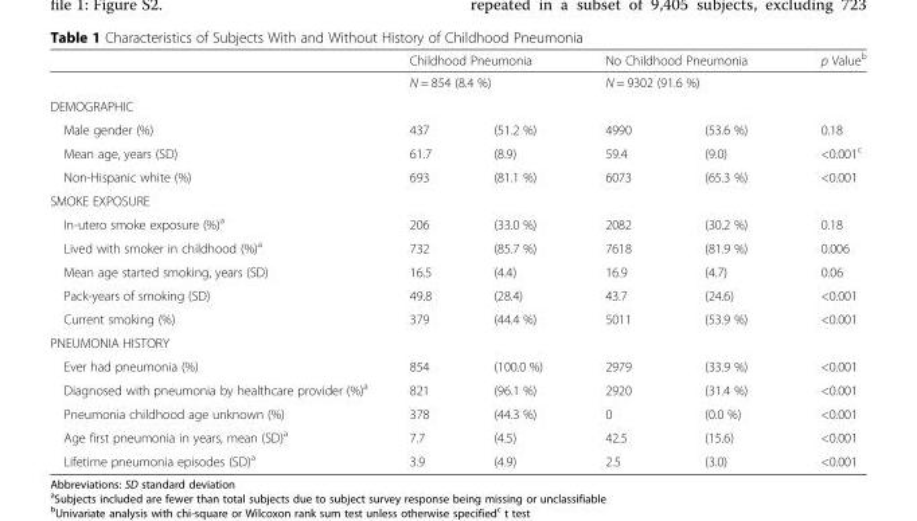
<table><thead><tr><td rowspan="2"></td><td rowspan="2" colspan="2">Childhood Pneumonia N = 854 (8.4 %)</td><td rowspan="2" colspan="2">No Childhood Pneumonia N = 9302 (91.6 %)</td><td rowspan="2">p Value<sup>b</sup></td></tr><tr></tr><tr><td colspan="6">DEMOGRAPHIC</td></tr><tr><td>Male gender (%)</td><td>437</td><td>(51.2 %)</td><td>4990</td><td>(53.6 %)</td><td>0.18</td></tr></thead><tbody><tr><td>Mean age, years (SD)</td><td>61.7</td><td>(8.9)</td><td>59.4</td><td>(9.0)</td><td>&lt;0.001<sup>c</sup></td></tr><tr><td>Non-Hispanic white (%)</td><td>693</td><td>(81.1 %)</td><td>6073</td><td>(65.3 %)</td><td>&lt;0.001</td></tr><tr><td colspan="6">SMOKE EXPOSURE</td></tr><tr><td>In-utero smoke exposure (%)<sup>a</sup></td><td>206</td><td>(33.0 %)</td><td>2082</td><td>(30.2 %)</td><td>0.18</td></tr><tr><td>Lived with smoker in childhood (%)<sup>a</sup></td><td>732</td><td>(85.7 %)</td><td>7618</td><td>(81.9 %)</td><td>0.006</td></tr><tr><td>Mean age started smoking, years (SD)</td><td>16.5</td><td>(4.4)</td><td>16.9</td><td>(4.7)</td><td>0.06</td></tr><tr><td>Pack-years of smoking (SD)</td><td>49.8</td><td>(28.4)</td><td>43.7</td><td>(24.6)</td><td>&lt;0.001</td></tr><tr><td>Current smoking (%)</td><td>379</td><td>(44.4 %)</td><td>5011</td><td>(53.9 %)</td><td>&lt;0.001</td></tr><tr><td colspan="6">PNEUMONIA HISTORY</td></tr><tr><td>Ever had pneumonia (%)</td><td>854</td><td>(100.0 %)</td><td>2979</td><td>(33.9 %)</td><td>&lt;0.001</td></tr><tr><td>Diagnosed with pneumonia by healthcare provider (%)<sup>a</sup></td><td>821</td><td>(96.1 %)</td><td>2920</td><td>(31.4 %)</td><td>&lt;0.001</td></tr><tr><td>Pneumonia childhood age unknown (%)</td><td>378</td><td>(44.3 %)</td><td>0</td><td>(0.0 %)</td><td>&lt;0.001</td></tr><tr><td>Age first pneumonia in years, mean (SD)<sup>a</sup></td><td>7.7</td><td>(4.5)</td><td>42.5</td><td>(15.6)</td><td>&lt;0.001</td></tr><tr><td>Lifetime pneumonia episodes (SD)<sup>a</sup></td><td>3.9</td><td>(4.9)</td><td>2.5</td><td>(3.0)</td><td>&lt;0.001</td></tr></tbody></table>